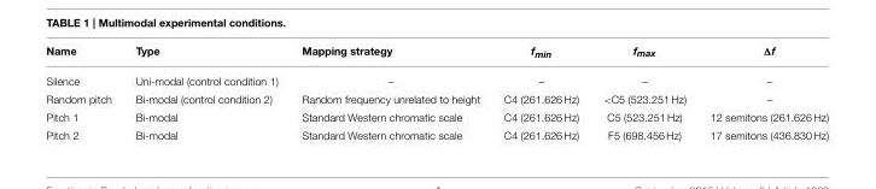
<table><thead><tr><td>Name</td><td>Type</td><td>Mapping strategy</td><td>fmin</td><td>fmax</td><td>Δf</td></tr></thead><tbody><tr><td>Silence</td><td>Uni-modal (control condition 1)</td><td>–</td><td>–</td><td>–</td><td>–</td></tr><tr><td>Random pitch</td><td>Bi-modal (control condition 2)</td><td>Random frequency unrelated to height</td><td>C4 (261.626 Hz)</td><td>&lt;C5 (523.251 Hz)</td><td>–</td></tr><tr><td>Pitch 1</td><td>Bi-modal</td><td>Standard Western chromatic scale</td><td>C4 (261.626 Hz)</td><td>C5 (523.251 Hz)</td><td>12 semitons (261.626 Hz)</td></tr><tr><td>Pitch 2</td><td>Bi-modal</td><td>Standard Western chromatic scale</td><td>C4 (261.626 Hz)</td><td>F5 (698.456 Hz)</td><td>17 semitons (436.830 Hz)</td></tr></tbody></table>